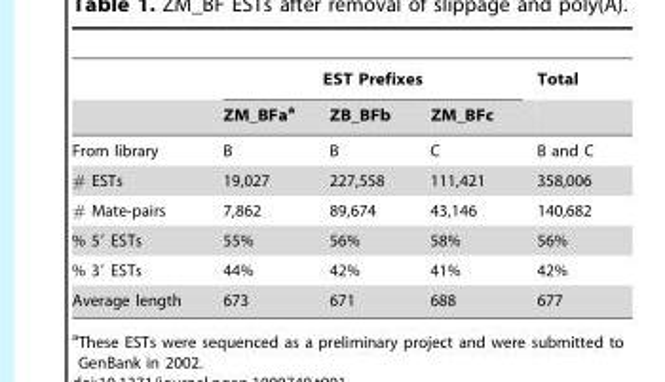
<table><thead><tr><td rowspan="2"></td><td colspan="3">EST Prefixes</td><td rowspan="2">Total</td></tr><tr><td>ZM_BFa<sup>a</sup></td><td>ZB_BFb</td><td>ZM_BFc</td></tr></thead><tbody><tr><td>From library</td><td>B</td><td>B</td><td>C</td><td>B and C</td></tr><tr><td># ESTs</td><td>19,027</td><td>227,558</td><td>111,421</td><td>358,006</td></tr><tr><td># Mate-pairs</td><td>7,862</td><td>89,674</td><td>43,146</td><td>140,682</td></tr><tr><td>% 5′ ESTs</td><td>55%</td><td>56%</td><td>58%</td><td>56%</td></tr><tr><td>% 3′ ESTs</td><td>44%</td><td>42%</td><td>41%</td><td>42%</td></tr><tr><td>Average length</td><td>673</td><td>671</td><td>688</td><td>677</td></tr></tbody></table>